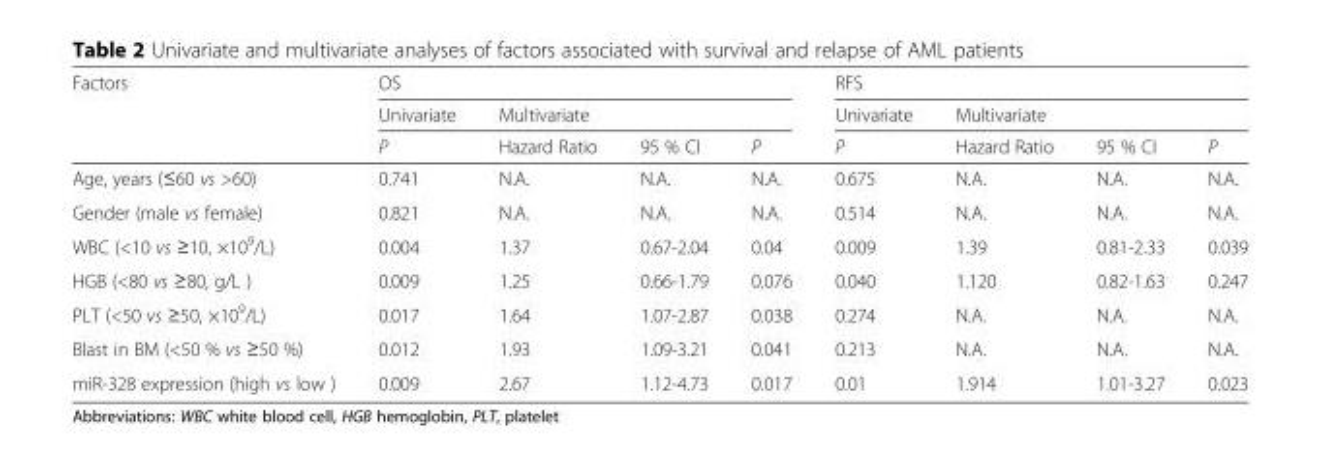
<table><thead><tr><td rowspan="3">Factors</td><td colspan="4">OS</td><td colspan="4">RFS</td></tr><tr><td rowspan="2">Univariate P</td><td colspan="3">Multivariate</td><td rowspan="2">Univariate P</td><td colspan="3">Multivariate</td></tr><tr><td>Hazard Ratio</td><td>95 % CI</td><td>P</td><td>Hazard Ratio</td><td>95 % CI</td><td>P</td></tr></thead><tbody><tr><td>Age, years (≤60 vs &gt;60)</td><td>0.741</td><td>N.A.</td><td>N.A.</td><td>N.A.</td><td>0.675</td><td>N.A.</td><td>N.A.</td><td>N.A.</td></tr><tr><td>Gender (male vs female)</td><td>0.821</td><td>N.A.</td><td>N.A.</td><td>N.A.</td><td>0.514</td><td>N.A.</td><td>N.A.</td><td>N.A.</td></tr><tr><td>WBC (&lt;10 vs ≥10, ×10<sup>9</sup>/L)</td><td>0.004</td><td>1.37</td><td>0.67-2.04</td><td>0.04</td><td>0.009</td><td>1.39</td><td>0.81-2.33</td><td>0.039</td></tr><tr><td>HGB (&lt;80 vs ≥80, g/L )</td><td>0.009</td><td>1.25</td><td>0.66-1.79</td><td>0.076</td><td>0.040</td><td>1.120</td><td>0.82-1.63</td><td>0.247</td></tr><tr><td>PLT (&lt;50 vs ≥50, ×10<sup>9</sup>/L)</td><td>0.017</td><td>1.64</td><td>1.07-2.87</td><td>0.038</td><td>0.274</td><td>N.A.</td><td>N.A.</td><td>N.A.</td></tr><tr><td>Blast in BM (&lt;50 % vs ≥50 %)</td><td>0.012</td><td>1.93</td><td>1.09-3.21</td><td>0.041</td><td>0.213</td><td>N.A.</td><td>N.A.</td><td>N.A.</td></tr><tr><td>miR-328 expression (high vs low )</td><td>0.009</td><td>2.67</td><td>1.12-4.73</td><td>0.017</td><td>0.01</td><td>1.914</td><td>1.01-3.27</td><td>0.023</td></tr></tbody></table>